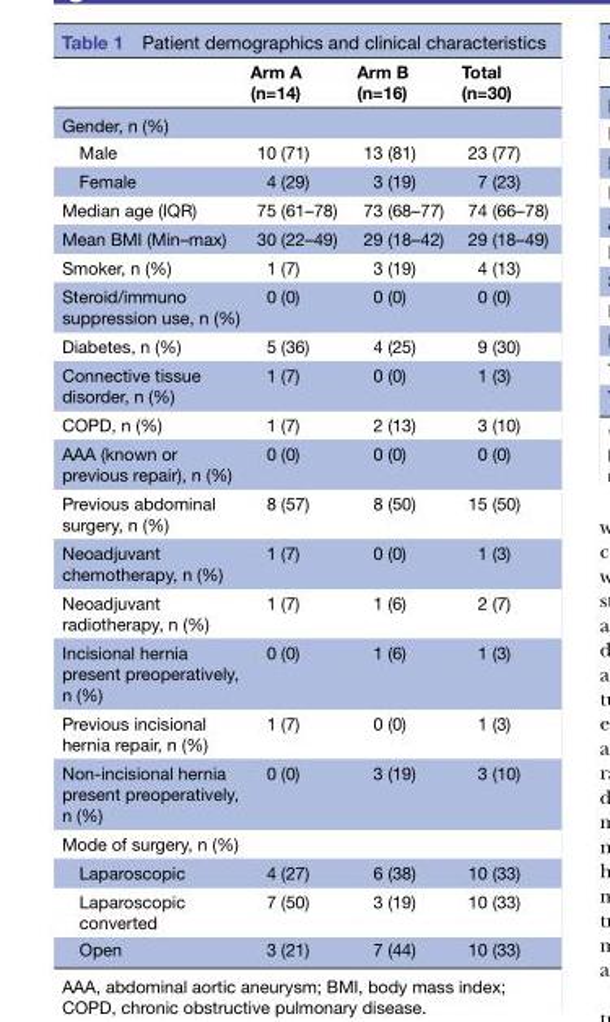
<table><thead><tr><td></td><td>Arm A (n=14)</td><td>Arm B (n=16)</td><td>Total (n=30)</td></tr></thead><tbody><tr><td colspan="4">Gender, n (%)</td></tr><tr><td>Male</td><td>10 (71)</td><td>13 (81)</td><td>23 (77)</td></tr><tr><td>Female</td><td>4 (29)</td><td>3 (19)</td><td>7 (23)</td></tr><tr><td>Median age (IQR)</td><td>75 (61–78)</td><td>73 (68–77)</td><td>74 (66–78)</td></tr><tr><td>Mean BMI (Min–max)</td><td>30 (22–49)</td><td>29 (18–42)</td><td>29 (18–49)</td></tr><tr><td>Smoker, n (%)</td><td>1 (7)</td><td>3 (19)</td><td>4 (13)</td></tr><tr><td>Steroid/immuno suppression use, n (%)</td><td>0 (0)</td><td>0 (0)</td><td>0 (0)</td></tr><tr><td>Diabetes, n (%)</td><td>5 (36)</td><td>4 (25)</td><td>9 (30)</td></tr><tr><td>Connective tissue disorder, n (%)</td><td>1 (7)</td><td>0 (0)</td><td>1 (3)</td></tr><tr><td>COPD, n (%)</td><td>1 (7)</td><td>2 (13)</td><td>3 (10)</td></tr><tr><td>AAA (known or previous repair), n (%)</td><td>0 (0)</td><td>0 (0)</td><td>0 (0)</td></tr><tr><td>Previous abdominal surgery, n (%)</td><td>8 (57)</td><td>8 (50)</td><td>15 (50)</td></tr><tr><td>Neoadjuvant chemotherapy, n (%)</td><td>1 (7)</td><td>0 (0)</td><td>1 (3)</td></tr><tr><td>Neoadjuvant radiotherapy, n (%)</td><td>1 (7)</td><td>1 (6)</td><td>2 (7)</td></tr><tr><td>Incisional hernia present preoperatively, n (%)</td><td>0 (0)</td><td>1 (6)</td><td>1 (3)</td></tr><tr><td>Previous incisional hernia repair, n (%)</td><td>1 (7)</td><td>0 (0)</td><td>1 (3)</td></tr><tr><td>Non-incisional hernia present preoperatively, n (%)</td><td>0 (0)</td><td>3 (19)</td><td>3 (10)</td></tr><tr><td colspan="4">Mode of surgery, n (%)</td></tr><tr><td>Laparoscopic</td><td>4 (27)</td><td>6 (38)</td><td>10 (33)</td></tr><tr><td>Laparoscopic converted</td><td>7 (50)</td><td>3 (19)</td><td>10 (33)</td></tr><tr><td>Open</td><td>3 (21)</td><td>7 (44)</td><td>10 (33)</td></tr></tbody></table>